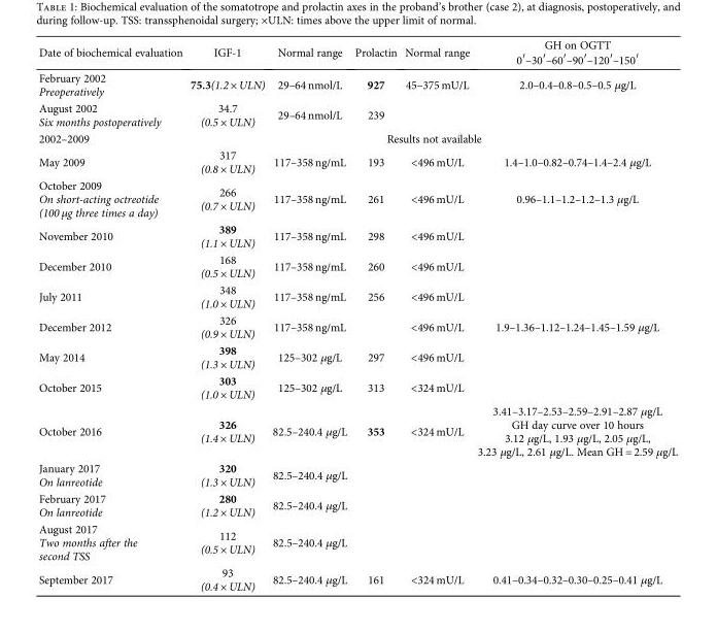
<table><thead><tr><td>Date of biochemical evaluation</td><td>IGF-1</td><td>Normal range</td><td>Prolactin</td><td>Normal range</td><td>GH on OGTT 0′–30′–60′–90′–120′–150′</td></tr></thead><tbody><tr><td>February 2002 Preoperatively</td><td>75.3(1.2 × ULN)</td><td>29–64 nmol/L</td><td>927</td><td>45–375 mU/L</td><td>2.0–0.4–0.8–0.5–0.5 μg/L</td></tr><tr><td>August 2002 Six months postoperatively</td><td>34.7 (0.5 × ULN)</td><td>29–64 nmol/L</td><td>239</td><td></td><td></td></tr><tr><td>2002–2009</td><td colspan="5">Results not available</td></tr><tr><td>May 2009</td><td>317 (0.8 × ULN)</td><td>117–358 ng/mL</td><td>193</td><td>&lt;496 mU/L</td><td>1.4–1.0–0.82–0.74–1.4–2.4 μg/L</td></tr><tr><td>October 2009 On short-acting octreotide (100 μg three times a day)</td><td>266 (0.7 × ULN)</td><td>117–358 ng/mL</td><td>261</td><td>&lt;496 mU/L</td><td>0.96–1.1–1.2–1.2–1.3 μg/L</td></tr><tr><td>November 2010</td><td>389 (1.1 × ULN)</td><td>117–358 ng/mL</td><td>298</td><td>&lt;496 mU/L</td><td></td></tr><tr><td>December 2010</td><td>168 (0.5 × ULN)</td><td>117–358 ng/mL</td><td>260</td><td>&lt;496 mU/L</td><td></td></tr><tr><td>July 2011</td><td>348 (1.0 × ULN)</td><td>117–358 ng/mL</td><td>256</td><td>&lt;496 mU/L</td><td></td></tr><tr><td>December 2012</td><td>326 (0.9 × ULN)</td><td>117–358 ng/mL</td><td></td><td>&lt;496 mU/L</td><td>1.9–1.36–1.12–1.24–1.45–1.59 μg/L</td></tr><tr><td>May 2014</td><td>398 (1.3 × ULN)</td><td>125–302 μg/L</td><td>297</td><td>&lt;496 mU/L</td><td></td></tr><tr><td>October 2015</td><td>303 (1.0 × ULN)</td><td>125–302 μg/L</td><td>313</td><td>&lt;324 mU/L</td><td></td></tr><tr><td>October 2016</td><td>326 (1.4 × ULN)</td><td>82.5–240.4 μg/L</td><td>353</td><td>&lt;324 mU/L</td><td>3.41–3.17–2.53–2.59–2.91–2.87 μg/L GH day curve over 10 hours 3.12 μg/L, 1.93 μg/L, 2.05 μg/L, 3.23 μg/L, 2.61 μg/L. Mean GH = 2.59 μg/L</td></tr><tr><td>January 2017 On lanreotide</td><td>320 (1.3 × ULN)</td><td>82.5–240.4 μg/L</td><td></td><td></td><td></td></tr><tr><td>February 2017 On lanreotide</td><td>280 (1.2 × ULN)</td><td>82.5–240.4 μg/L</td><td></td><td></td><td></td></tr><tr><td>August 2017 Two months after the second TSS</td><td>112 (0.5 × ULN)</td><td>82.5–240.4 μg/L</td><td></td><td></td><td></td></tr><tr><td>September 2017</td><td>93 (0.4 × ULN)</td><td>82.5–240.4 μg/L</td><td>161</td><td>&lt;324 mU/L</td><td>0.41–0.34–0.32–0.30–0.25–0.41 μg/L</td></tr></tbody></table>